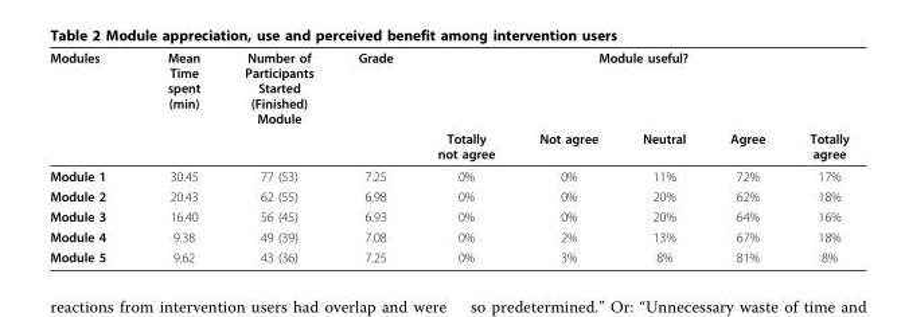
<table><thead><tr><td rowspan="2">Modules</td><td rowspan="2">Mean Time spent (min)</td><td rowspan="2">Number of Participants Started (Finished) Module</td><td rowspan="2">Grade</td><td colspan="5">Module useful?</td></tr><tr><td>Totally not agree</td><td>Not agree</td><td>Neutral</td><td>Agree</td><td>Totally agree</td></tr></thead><tbody><tr><td>Module 1</td><td>30.45</td><td>77 (53)</td><td>7.25</td><td>0%</td><td>0%</td><td>11%</td><td>72%</td><td>17%</td></tr><tr><td>Module 2</td><td>20.43</td><td>62 (55)</td><td>6.98</td><td>0%</td><td>0%</td><td>20%</td><td>62%</td><td>18%</td></tr><tr><td>Module 3</td><td>16.40</td><td>56 (45)</td><td>6.93</td><td>0%</td><td>0%</td><td>20%</td><td>64%</td><td>16%</td></tr><tr><td>Module 4</td><td>9.38</td><td>49 (39)</td><td>7.08</td><td>0%</td><td>2%</td><td>13%</td><td>67%</td><td>18%</td></tr><tr><td>Module 5</td><td>9.62</td><td>43 (36)</td><td>7.25</td><td>0%</td><td>3%</td><td>8%</td><td>81%</td><td>8%</td></tr></tbody></table>